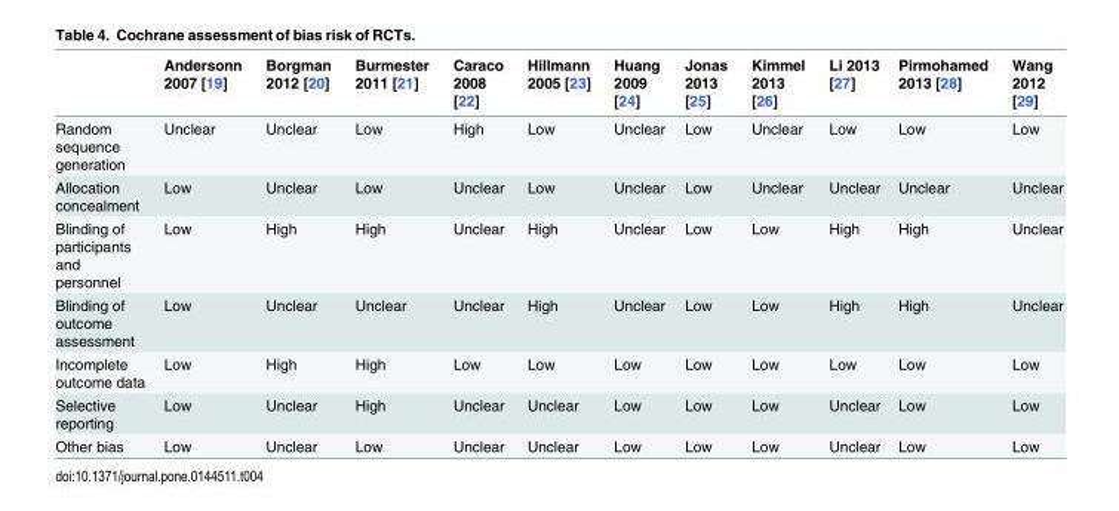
<table><thead><tr><td></td><td>Andersonn 2007 [19]</td><td>Borgman 2012 [20]</td><td>Burmester 2011 [21]</td><td>Caraco 2008 [22]</td><td>Hillmann 2005 [23]</td><td>Huang 2009 [24]</td><td>Jonas 2013 [25]</td><td>Kimmel 2013 [26]</td><td>Li 2013 [27]</td><td>Pirmohamed 2013 [28]</td><td>Wang 2012 [29]</td></tr></thead><tbody><tr><td>Random sequence generation</td><td>Unclear</td><td>Unclear</td><td>Low</td><td>High</td><td>Low</td><td>Unclear</td><td>Low</td><td>Unclear</td><td>Low</td><td>Low</td><td>Low</td></tr><tr><td>Allocation concealment</td><td>Low</td><td>Unclear</td><td>Low</td><td>Unclear</td><td>Low</td><td>Unclear</td><td>Low</td><td>Unclear</td><td>Unclear</td><td>Unclear</td><td>Unclear</td></tr><tr><td>Blinding of participants and personnel</td><td>Low</td><td>High</td><td>High</td><td>Unclear</td><td>High</td><td>Unclear</td><td>Low</td><td>Low</td><td>High</td><td>High</td><td>Unclear</td></tr><tr><td>Blinding of outcome assessment</td><td>Low</td><td>Unclear</td><td>Unclear</td><td>Unclear</td><td>High</td><td>Unclear</td><td>Low</td><td>Low</td><td>High</td><td>High</td><td>Unclear</td></tr><tr><td>Incomplete outcome data</td><td>Low</td><td>High</td><td>High</td><td>Low</td><td>Low</td><td>Low</td><td>Low</td><td>Low</td><td>Low</td><td>Low</td><td>Low</td></tr><tr><td>Selective reporting</td><td>Low</td><td>Unclear</td><td>High</td><td>Unclear</td><td>Unclear</td><td>Low</td><td>Low</td><td>Low</td><td>Unclear</td><td>Low</td><td>Low</td></tr><tr><td>Other bias</td><td>Low</td><td>Unclear</td><td>Low</td><td>Unclear</td><td>Unclear</td><td>Low</td><td>Low</td><td>Low</td><td>Unclear</td><td>Low</td><td>Low</td></tr></tbody></table>